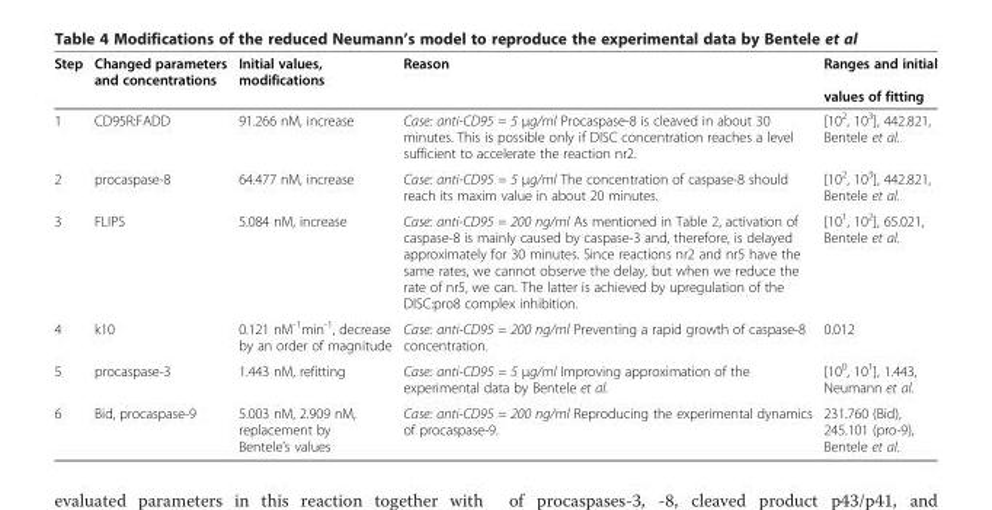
<table><thead><tr><td>Step</td><td>Changed parameters and concentrations</td><td>Initial values, modifications</td><td>Reason</td><td>Ranges and initial values of fitting</td></tr></thead><tbody><tr><td>1</td><td>CD95R:FADD</td><td>91.266 nM, increase</td><td>Case: anti-CD95 = 5 μg/ml Procaspase-8 is cleaved in about 30 minutes. This is possible only if DISC concentration reaches a level sufficient to accelerate the reaction nr2.</td><td>[10<sup>2</sup>, 10<sup>3</sup>], 442.821, Bentele et al.</td></tr><tr><td>2</td><td>procaspase-8</td><td>64.477 nM, increase</td><td>Case: anti-CD95 = 5 μg/ml The concentration of caspase-8 should reach its maxim value in about 20 minutes.</td><td>[10<sup>2</sup>, 10<sup>3</sup>], 442.821, Bentele et al.</td></tr><tr><td>3</td><td>FLIPS</td><td>5.084 nM, increase</td><td>Case: anti-CD95 = 200 ng/ml As mentioned in Table 2, activation of caspase-8 is mainly caused by caspase-3 and, therefore, is delayed approximately for 30 minutes. Since reactions nr2 and nr5 have the same rates, we cannot observe the delay, but when we reduce the rate of nr5, we can. The latter is achieved by upregulation of the DISC:pro8 complex inhibition.</td><td>[10<sup>1</sup>, 10<sup>2</sup>], 65.021, Bentele et al.</td></tr><tr><td>4</td><td>k10</td><td>0.121 nM<sup>-1</sup>min<sup>-1</sup>, decrease by an order of magnitude</td><td>Case: anti-CD95 = 200 ng/ml Preventing a rapid growth of caspase-8 concentration.</td><td>0.012</td></tr><tr><td>5</td><td>procaspase-3</td><td>1.443 nM, refitting</td><td>Case: anti-CD95 = 5 μg/ml Improving approximation of the experimental data by Bentele et al.</td><td>[10<sup>0</sup>, 10<sup>1</sup>], 1.443, Neumann et al.</td></tr><tr><td>6</td><td>Bid, procaspase-9</td><td>5.003 nM, 2.909 nM, replacement by Bentele’s values</td><td>Case: anti-CD95 = 200 ng/ml Reproducing the experimental dynamics of procaspase-9.</td><td>231.760 (Bid), 245.101 (pro-9), Bentele et al.</td></tr></tbody></table>